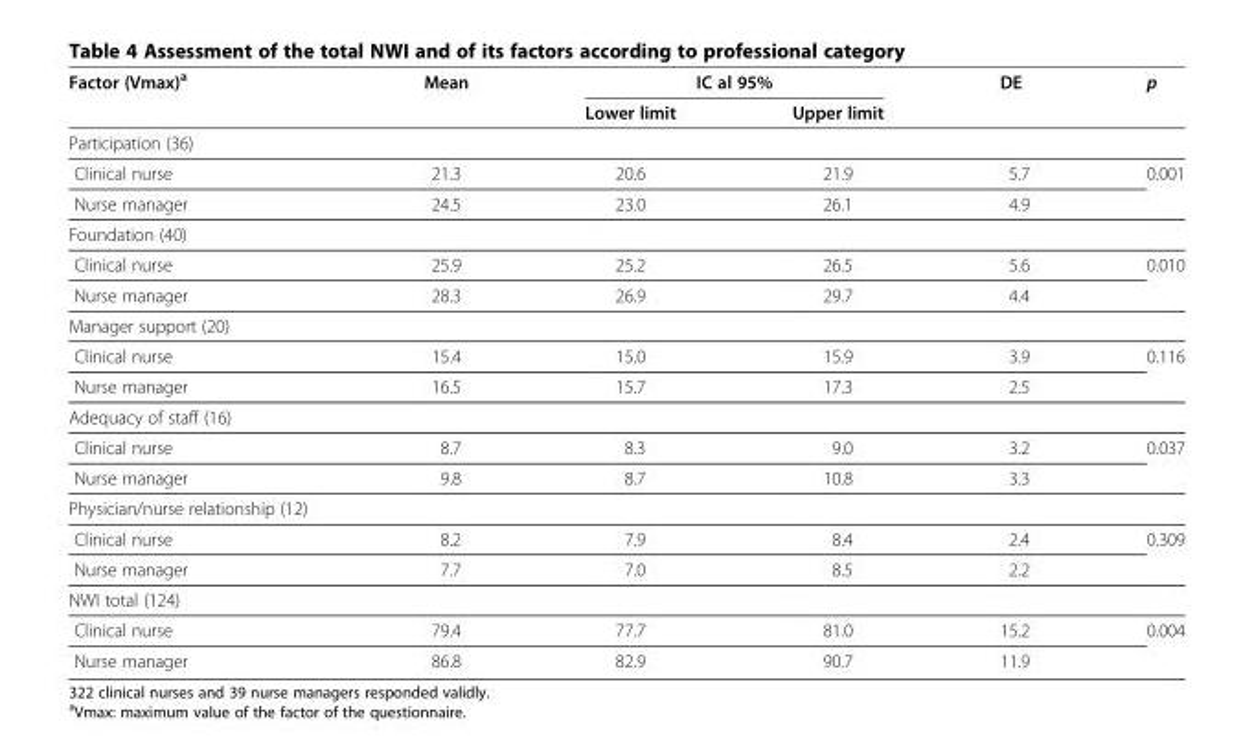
<table><thead><tr><td rowspan="2">Factor (Vmax)<sup>a</sup></td><td rowspan="2">Mean</td><td colspan="2">IC al 95%</td><td rowspan="2">DE</td><td rowspan="2">p</td></tr><tr><td>Lower limit</td><td>Upper limit</td></tr></thead><tbody><tr><td colspan="6">Participation (36)</td></tr><tr><td>Clinical nurse</td><td>21.3</td><td>20.6</td><td>21.9</td><td>5.7</td><td>0.001</td></tr><tr><td>Nurse manager</td><td>24.5</td><td>23.0</td><td>26.1</td><td>4.9</td><td></td></tr><tr><td colspan="6">Foundation (40)</td></tr><tr><td>Clinical nurse</td><td>25.9</td><td>25.2</td><td>26.5</td><td>5.6</td><td>0.010</td></tr><tr><td>Nurse manager</td><td>28.3</td><td>26.9</td><td>29.7</td><td>4.4</td><td></td></tr><tr><td colspan="6">Manager support (20)</td></tr><tr><td>Clinical nurse</td><td>15.4</td><td>15.0</td><td>15.9</td><td>3.9</td><td>0.116</td></tr><tr><td>Nurse manager</td><td>16.5</td><td>15.7</td><td>17.3</td><td>2.5</td><td></td></tr><tr><td colspan="6">Adequacy of staff (16)</td></tr><tr><td>Clinical nurse</td><td>8.7</td><td>8.3</td><td>9.0</td><td>3.2</td><td>0.037</td></tr><tr><td>Nurse manager</td><td>9.8</td><td>8.7</td><td>10.8</td><td>3.3</td><td></td></tr><tr><td colspan="6">Physician/nurse relationship (12)</td></tr><tr><td>Clinical nurse</td><td>8.2</td><td>7.9</td><td>8.4</td><td>2.4</td><td>0.309</td></tr><tr><td>Nurse manager</td><td>7.7</td><td>7.0</td><td>8.5</td><td>2.2</td><td></td></tr><tr><td colspan="6">NWI total (124)</td></tr><tr><td>Clinical nurse</td><td>79.4</td><td>77.7</td><td>81.0</td><td>15.2</td><td>0.004</td></tr><tr><td>Nurse manager</td><td>86.8</td><td>82.9</td><td>90.7</td><td>11.9</td><td></td></tr></tbody></table>